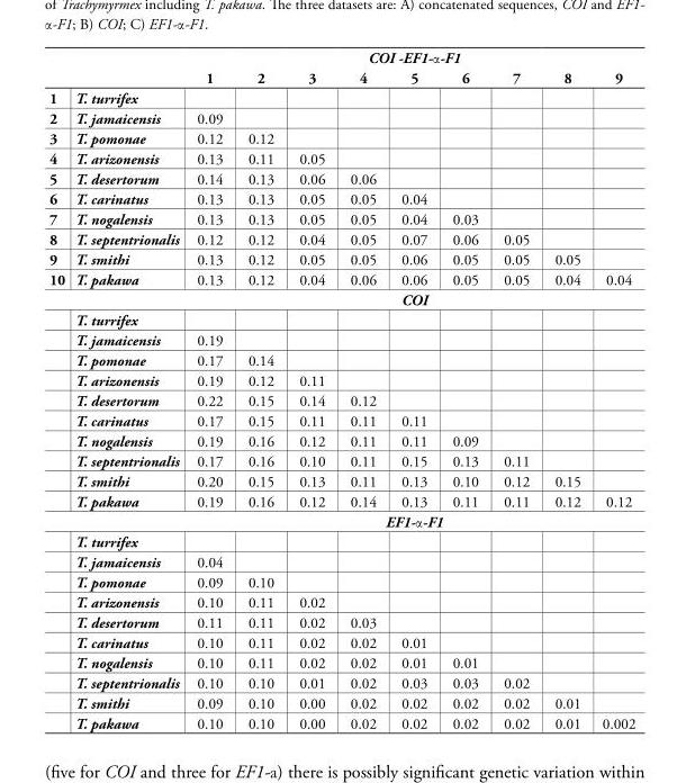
<table><thead><tr><td rowspan="2"></td><td rowspan="2"></td><td colspan="9">COI -EF1-α-F1</td></tr><tr><td>1</td><td>2</td><td>3</td><td>4</td><td>5</td><td>6</td><td>7</td><td>8</td><td>9</td></tr></thead><tbody><tr><td>1</td><td>T. turrifex</td><td></td><td></td><td></td><td></td><td></td><td></td><td></td><td></td><td></td></tr><tr><td>2</td><td>T. jamaicensis</td><td>0.09</td><td></td><td></td><td></td><td></td><td></td><td></td><td></td><td></td></tr><tr><td>3</td><td>T. pomonae</td><td>0.12</td><td>0.12</td><td></td><td></td><td></td><td></td><td></td><td></td><td></td></tr><tr><td>4</td><td>T. arizonensis</td><td>0.13</td><td>0.11</td><td>0.05</td><td></td><td></td><td></td><td></td><td></td><td></td></tr><tr><td>5</td><td>T. desertorum</td><td>0.14</td><td>0.13</td><td>0.06</td><td>0.06</td><td></td><td></td><td></td><td></td><td></td></tr><tr><td>6</td><td>T. carinatus</td><td>0.13</td><td>0.13</td><td>0.05</td><td>0.05</td><td>0.04</td><td></td><td></td><td></td><td></td></tr><tr><td>7</td><td>T. nogalensis</td><td>0.13</td><td>0.13</td><td>0.05</td><td>0.05</td><td>0.04</td><td>0.03</td><td></td><td></td><td></td></tr><tr><td>8</td><td>T. septentrionalis</td><td>0.12</td><td>0.12</td><td>0.04</td><td>0.05</td><td>0.07</td><td>0.06</td><td>0.05</td><td></td><td></td></tr><tr><td>9</td><td>T. smithi</td><td>0.13</td><td>0.12</td><td>0.05</td><td>0.05</td><td>0.06</td><td>0.05</td><td>0.05</td><td>0.05</td><td></td></tr><tr><td rowspan="23">10</td><td>T. pakawa</td><td>0.13</td><td>0.12</td><td>0.04</td><td>0.06</td><td>0.06</td><td>0.05</td><td>0.05</td><td>0.04</td><td>0.04</td></tr><tr><td></td><td colspan="9">COI</td></tr><tr><td>T. turrifex</td><td></td><td></td><td></td><td></td><td></td><td></td><td></td><td></td><td></td></tr><tr><td>T. jamaicensis</td><td>0.19</td><td></td><td></td><td></td><td></td><td></td><td></td><td></td><td></td></tr><tr><td>T. pomonae</td><td>0.17</td><td>0.14</td><td></td><td></td><td></td><td></td><td></td><td></td><td></td></tr><tr><td>T. arizonensis</td><td>0.19</td><td>0.12</td><td>0.11</td><td></td><td></td><td></td><td></td><td></td><td></td></tr><tr><td>T. desertorum</td><td>0.22</td><td>0.15</td><td>0.14</td><td>0.12</td><td></td><td></td><td></td><td></td><td></td></tr><tr><td>T. carinatus</td><td>0.17</td><td>0.15</td><td>0.11</td><td>0.11</td><td>0.11</td><td></td><td></td><td></td><td></td></tr><tr><td>T. nogalensis</td><td>0.19</td><td>0.16</td><td>0.12</td><td>0.11</td><td>0.11</td><td>0.09</td><td></td><td></td><td></td></tr><tr><td>T. septentrionalis</td><td>0.17</td><td>0.16</td><td>0.10</td><td>0.11</td><td>0.15</td><td>0.13</td><td>0.11</td><td></td><td></td></tr><tr><td>T. smithi</td><td>0.20</td><td>0.15</td><td>0.13</td><td>0.11</td><td>0.13</td><td>0.10</td><td>0.12</td><td>0.15</td><td></td></tr><tr><td>T. pakawa</td><td>0.19</td><td>0.16</td><td>0.12</td><td>0.14</td><td>0.13</td><td>0.11</td><td>0.11</td><td>0.12</td><td>0.12</td></tr><tr><td></td><td colspan="9">EF1-α-F1</td></tr><tr><td>T. turrifex</td><td></td><td></td><td></td><td></td><td></td><td></td><td></td><td></td><td></td></tr><tr><td>T. jamaicensis</td><td>0.04</td><td></td><td></td><td></td><td></td><td></td><td></td><td></td><td></td></tr><tr><td>T. pomonae</td><td>0.09</td><td>0.10</td><td></td><td></td><td></td><td></td><td></td><td></td><td></td></tr><tr><td>T. arizonensis</td><td>0.10</td><td>0.11</td><td>0.02</td><td></td><td></td><td></td><td></td><td></td><td></td></tr><tr><td>T. desertorum</td><td>0.11</td><td>0.11</td><td>0.02</td><td>0.03</td><td></td><td></td><td></td><td></td><td></td></tr><tr><td>T. carinatus</td><td>0.10</td><td>0.11</td><td>0.02</td><td>0.02</td><td>0.01</td><td></td><td></td><td></td><td></td></tr><tr><td>T. nogalensis</td><td>0.10</td><td>0.11</td><td>0.02</td><td>0.02</td><td>0.01</td><td>0.01</td><td></td><td></td><td></td></tr><tr><td>T. septentrionalis</td><td>0.10</td><td>0.10</td><td>0.01</td><td>0.02</td><td>0.03</td><td>0.03</td><td>0.02</td><td></td><td></td></tr><tr><td>T. smithi</td><td>0.09</td><td>0.10</td><td>0.00</td><td>0.02</td><td>0.02</td><td>0.02</td><td>0.02</td><td>0.01</td><td></td></tr><tr><td>T. pakawa</td><td>0.10</td><td>0.10</td><td>0.00</td><td>0.02</td><td>0.02</td><td>0.02</td><td>0.02</td><td>0.01</td><td>0.002</td></tr></tbody></table>